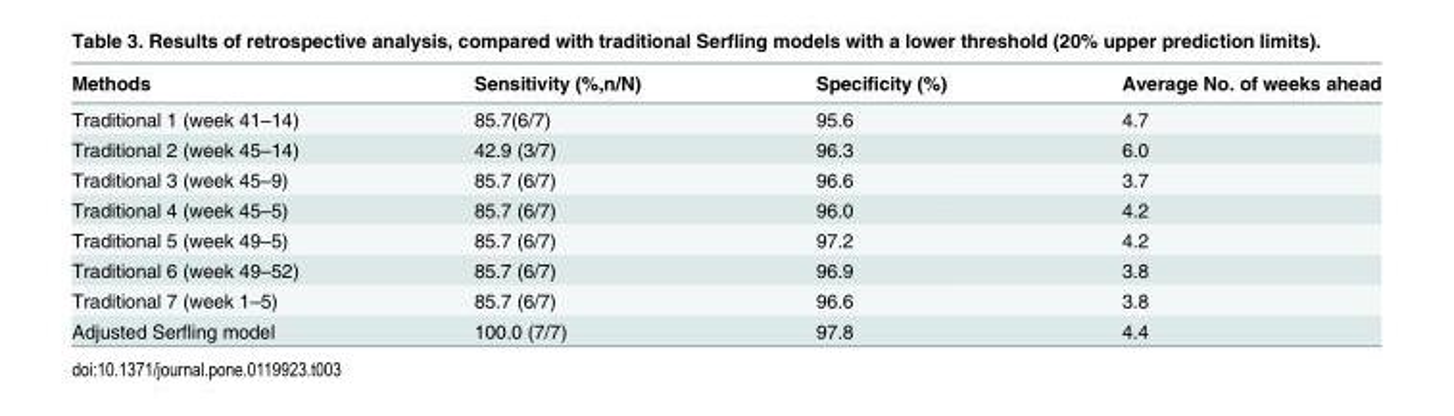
<table><thead><tr><td>Methods</td><td>Sensitivity (%,n/N)</td><td>Specificity (%)</td><td>Average No. of weeks ahead</td></tr></thead><tbody><tr><td>Traditional 1 (week 41–14)</td><td>85.7(6/7)</td><td>95.6</td><td>4.7</td></tr><tr><td>Traditional 2 (week 45–14)</td><td>42.9 (3/7)</td><td>96.3</td><td>6.0</td></tr><tr><td>Traditional 3 (week 45–9)</td><td>85.7 (6/7)</td><td>96.6</td><td>3.7</td></tr><tr><td>Traditional 4 (week 45–5)</td><td>85.7 (6/7)</td><td>96.0</td><td>4.2</td></tr><tr><td>Traditional 5 (week 49–5)</td><td>85.7 (6/7)</td><td>97.2</td><td>4.2</td></tr><tr><td>Traditional 6 (week 49–52)</td><td>85.7 (6/7)</td><td>96.9</td><td>3.8</td></tr><tr><td>Traditional 7 (week 1–5)</td><td>85.7 (6/7)</td><td>96.6</td><td>3.8</td></tr><tr><td>Adjusted Serfling model</td><td>100.0 (7/7)</td><td>97.8</td><td>4.4</td></tr></tbody></table>